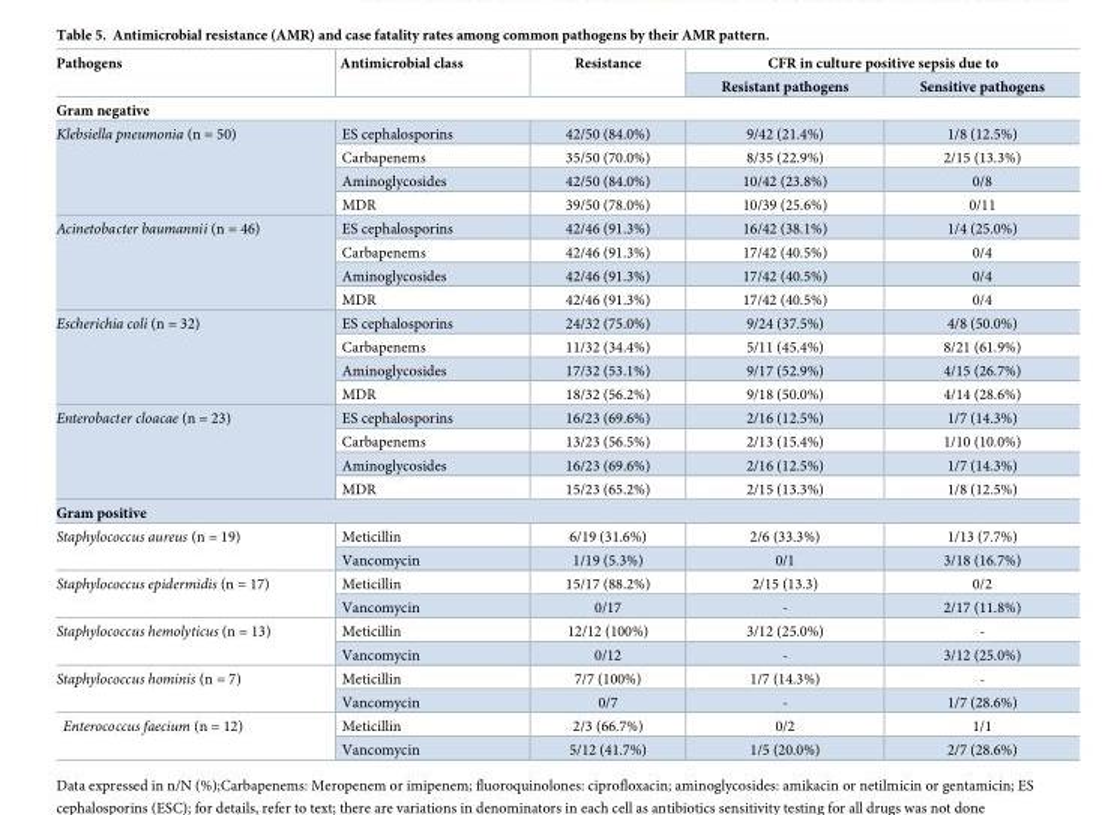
<table><thead><tr><td rowspan="2">Pathogens</td><td rowspan="2">Antimicrobial class</td><td rowspan="2">Resistance</td><td colspan="2">CFR in culture positive sepsis due to</td></tr><tr><td>Resistant pathogens</td><td>Sensitive pathogens</td></tr></thead><tbody><tr><td colspan="5">Gram negative</td></tr><tr><td rowspan="4">Klebsiella pneumonia (n = 50)</td><td>ES cephalosporins</td><td>42/50 (84.0%)</td><td>9/42 (21.4%)</td><td>1/8 (12.5%)</td></tr><tr><td>Carbapenems</td><td>35/50 (70.0%)</td><td>8/35 (22.9%)</td><td>2/15 (13.3%)</td></tr><tr><td>Aminoglycosides</td><td>42/50 (84.0%)</td><td>10/42 (23.8%)</td><td>0/8</td></tr><tr><td>MDR</td><td>39/50 (78.0%)</td><td>10/39 (25.6%)</td><td>0/11</td></tr><tr><td rowspan="4">Acinetobacter baumannii (n = 46)</td><td>ES cephalosporins</td><td>42/46 (91.3%)</td><td>16/42 (38.1%)</td><td>1/4 (25.0%)</td></tr><tr><td>Carbapenems</td><td>42/46 (91.3%)</td><td>17/42 (40.5%)</td><td>0/4</td></tr><tr><td>Aminoglycosides</td><td>42/46 (91.3%)</td><td>17/42 (40.5%)</td><td>0/4</td></tr><tr><td>MDR</td><td>42/46 (91.3%)</td><td>17/42 (40.5%)</td><td>0/4</td></tr><tr><td rowspan="4">Escherichia coli (n = 32)</td><td>ES cephalosporins</td><td>24/32 (75.0%)</td><td>9/24 (37.5%)</td><td>4/8 (50.0%)</td></tr><tr><td>Carbapenems</td><td>11/32 (34.4%)</td><td>5/11 (45.4%)</td><td>8/21 (61.9%)</td></tr><tr><td>Aminoglycosides</td><td>17/32 (53.1%)</td><td>9/17 (52.9%)</td><td>4/15 (26.7%)</td></tr><tr><td>MDR</td><td>18/32 (56.2%)</td><td>9/18 (50.0%)</td><td>4/14 (28.6%)</td></tr><tr><td rowspan="4">Enterobacter cloacae (n = 23)</td><td>ES cephalosporins</td><td>16/23 (69.6%)</td><td>2/16 (12.5%)</td><td>1/7 (14.3%)</td></tr><tr><td>Carbapenems</td><td>13/23 (56.5%)</td><td>2/13 (15.4%)</td><td>1/10 (10.0%)</td></tr><tr><td>Aminoglycosides</td><td>16/23 (69.6%)</td><td>2/16 (12.5%)</td><td>1/7 (14.3%)</td></tr><tr><td>MDR</td><td>15/23 (65.2%)</td><td>2/15 (13.3%)</td><td>1/8 (12.5%)</td></tr><tr><td colspan="5">Gram positive</td></tr><tr><td rowspan="2">Staphylococcus aureus (n = 19)</td><td>Meticillin</td><td>6/19 (31.6%)</td><td>2/6 (33.3%)</td><td>1/13 (7.7%)</td></tr><tr><td>Vancomycin</td><td>1/19 (5.3%)</td><td>0/1</td><td>3/18 (16.7%)</td></tr><tr><td rowspan="2">Staphylococcus epidermidis (n = 17)</td><td>Meticillin</td><td>15/17 (88.2%)</td><td>2/15 (13.3)</td><td>0/2</td></tr><tr><td>Vancomycin</td><td>0/17</td><td>-</td><td>2/17 (11.8%)</td></tr><tr><td rowspan="2">Staphylococcus hemolyticus (n = 13)</td><td>Meticillin</td><td>12/12 (100%)</td><td>3/12 (25.0%)</td><td>-</td></tr><tr><td>Vancomycin</td><td>0/12</td><td>-</td><td>3/12 (25.0%)</td></tr><tr><td rowspan="2">Staphylococcus hominis (n = 7)</td><td>Meticillin</td><td>7/7 (100%)</td><td>1/7 (14.3%)</td><td>-</td></tr><tr><td>Vancomycin</td><td>0/7</td><td>-</td><td>1/7 (28.6%)</td></tr><tr><td rowspan="2">Enterococcus faecium (n = 12)</td><td>Meticillin</td><td>2/3 (66.7%)</td><td>0/2</td><td>1/1</td></tr><tr><td>Vancomycin</td><td>5/12 (41.7%)</td><td>1/5 (20.0%)</td><td>2/7 (28.6%)</td></tr></tbody></table>